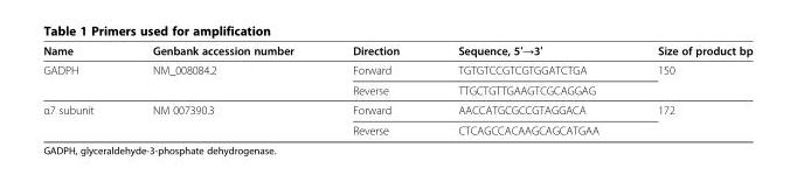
<table><thead><tr><td>Name</td><td>Genbank accession number</td><td>Direction</td><td>Sequence, 5′→3′</td><td>Size of product bp</td></tr></thead><tbody><tr><td rowspan="2">GADPH</td><td rowspan="2">NM_008084.2</td><td>Forward</td><td>TGTGTCCGTCGTGGATCTGA</td><td rowspan="2">150</td></tr><tr><td>Reverse</td><td>TTGCTGTTGAAGTCGCAGGAG</td></tr><tr><td rowspan="2">α7 subunit</td><td rowspan="2">NM 007390.3</td><td>Forward</td><td>AACCATGCGCCGTAGGACA</td><td rowspan="2">172</td></tr><tr><td>Reverse</td><td>CTCAGCCACAAGCAGCATGAA</td></tr></tbody></table>